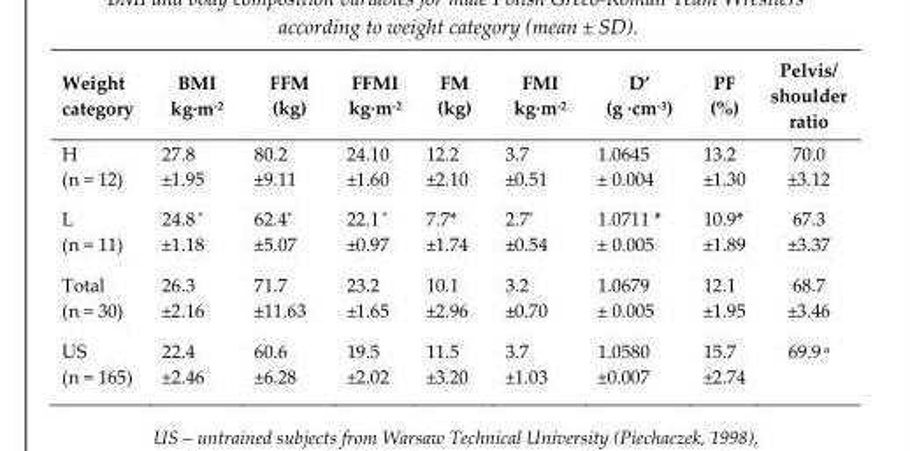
<table><thead><tr><td>Weight category</td><td>BMI kg·m<sup>-2</sup></td><td>FFM (kg)</td><td>FFMI kg·m<sup>-2</sup></td><td>FM (kg)</td><td>FMI kg·m<sup>-2</sup></td><td>D’ (g ·cm<sup>-3</sup>)</td><td>PF (%)</td><td>Pelvis/ shoulder ratio</td></tr></thead><tbody><tr><td>H (n = 12)</td><td>27.8 ±1.95</td><td>80.2 ±9.11</td><td>24.10 ±1.60</td><td>12.2 ±2.10</td><td>3.7 ±0.51</td><td>1.0645 ± 0.004</td><td>13.2 ±1.30</td><td>70.0 ±3.12</td></tr><tr><td>L (n = 11)</td><td>24.8 * ±1.18</td><td>62.4* ±5.07</td><td>22.1 * ±0.97</td><td>7.7* ±1.74</td><td>2.7* ±0.54</td><td>1.0711 * ± 0.005</td><td>10.9* ±1.89</td><td>67.3 ±3.37</td></tr><tr><td>Total (n = 30)</td><td>26.3 ±2.16</td><td>71.7 ±11.63</td><td>23.2 ±1.65</td><td>10.1 ±2.96</td><td>3.2 ±0.70</td><td>1.0679 ± 0.005</td><td>12.1 ±1.95</td><td>68.7 ±3.46</td></tr><tr><td>US (n = 165)</td><td>22.4 ±2.46</td><td>60.6 ±6.28</td><td>19.5 ±2.02</td><td>11.5 ±3.20</td><td>3.7 ±1.03</td><td>1.0580 ±0.007</td><td>15.7 ±2.74</td><td>69.9 <sup>a</sup></td></tr></tbody></table>